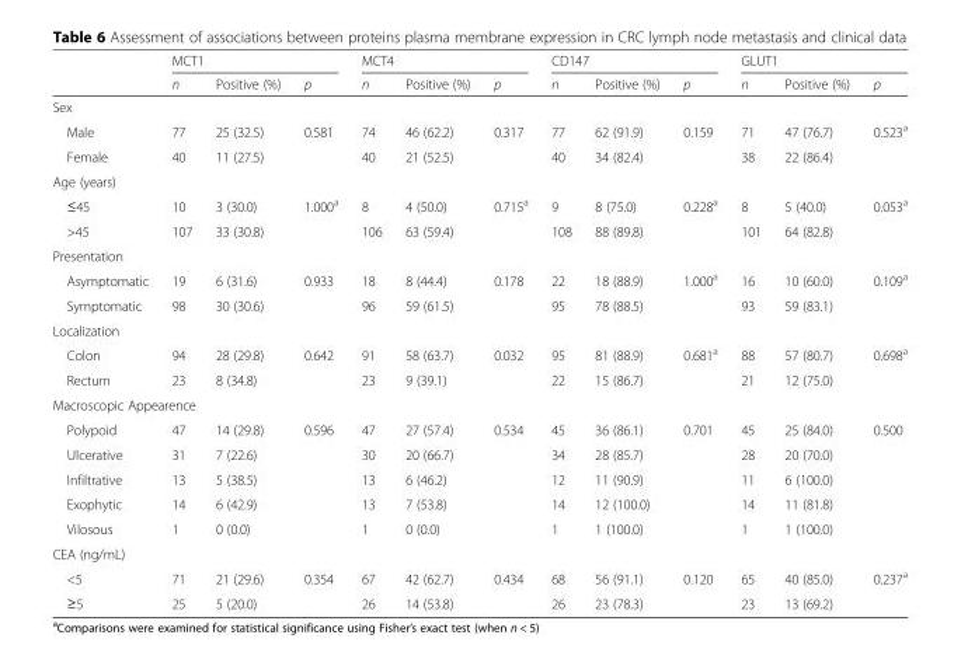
<table><thead><tr><td rowspan="2"></td><td colspan="3">MCT1</td><td colspan="3">MCT4</td><td colspan="3">CD147</td><td colspan="3">GLUT1</td></tr><tr><td>n</td><td>Positive (%)</td><td>p</td><td>n</td><td>Positive (%)</td><td>p</td><td>n</td><td>Positive (%)</td><td>p</td><td>n</td><td>Positive (%)</td><td>p</td></tr></thead><tbody><tr><td colspan="13">Sex</td></tr><tr><td>Male</td><td>77</td><td>25 (32.5)</td><td>0.581</td><td>74</td><td>46 (62.2)</td><td>0.317</td><td>77</td><td>62 (91.9)</td><td>0.159</td><td>71</td><td>47 (76.7)</td><td>0.523<sup>a</sup></td></tr><tr><td>Female</td><td>40</td><td>11 (27.5)</td><td></td><td>40</td><td>21 (52.5)</td><td></td><td>40</td><td>34 (82.4)</td><td></td><td>38</td><td>22 (86.4)</td><td></td></tr><tr><td colspan="13">Age (years)</td></tr><tr><td>≤45</td><td>10</td><td>3 (30.0)</td><td>1.000<sup>a</sup></td><td>8</td><td>4 (50.0)</td><td>0.715<sup>a</sup></td><td>9</td><td>8 (75.0)</td><td>0.228<sup>a</sup></td><td>8</td><td>5 (40.0)</td><td>0.053<sup>a</sup></td></tr><tr><td>&gt;45</td><td>107</td><td>33 (30.8)</td><td></td><td>106</td><td>63 (59.4)</td><td></td><td>108</td><td>88 (89.8)</td><td></td><td>101</td><td>64 (82.8)</td><td></td></tr><tr><td colspan="13">Presentation</td></tr><tr><td>Asymptomatic</td><td>19</td><td>6 (31.6)</td><td>0.933</td><td>18</td><td>8 (44.4)</td><td>0.178</td><td>22</td><td>18 (88.9)</td><td>1.000<sup>a</sup></td><td>16</td><td>10 (60.0)</td><td>0.109<sup>a</sup></td></tr><tr><td>Symptomatic</td><td>98</td><td>30 (30.6)</td><td></td><td>96</td><td>59 (61.5)</td><td></td><td>95</td><td>78 (88.5)</td><td></td><td>93</td><td>59 (83.1)</td><td></td></tr><tr><td colspan="13">Localization</td></tr><tr><td>Colon</td><td>94</td><td>28 (29.8)</td><td>0.642</td><td>91</td><td>58 (63.7)</td><td>0.032</td><td>95</td><td>81 (88.9)</td><td>0.681<sup>a</sup></td><td>88</td><td>57 (80.7)</td><td>0.698<sup>a</sup></td></tr><tr><td>Rectum</td><td>23</td><td>8 (34.8)</td><td></td><td>23</td><td>9 (39.1)</td><td></td><td>22</td><td>15 (86.7)</td><td></td><td>21</td><td>12 (75.0)</td><td></td></tr><tr><td colspan="13">Macroscopic Appearence</td></tr><tr><td>Polypoid</td><td>47</td><td>14 (29.8)</td><td>0.596</td><td>47</td><td>27 (57.4)</td><td>0.534</td><td>45</td><td>36 (86.1)</td><td>0.701</td><td>45</td><td>25 (84.0)</td><td>0.500</td></tr><tr><td>Ulcerative</td><td>31</td><td>7 (22.6)</td><td></td><td>30</td><td>20 (66.7)</td><td></td><td>34</td><td>28 (85.7)</td><td></td><td>28</td><td>20 (70.0)</td><td></td></tr><tr><td>Infiltrative</td><td>13</td><td>5 (38.5)</td><td></td><td>13</td><td>6 (46.2)</td><td></td><td>12</td><td>11 (90.9)</td><td></td><td>11</td><td>6 (100.0)</td><td></td></tr><tr><td>Exophytic</td><td>14</td><td>6 (42.9)</td><td></td><td>13</td><td>7 (53.8)</td><td></td><td>14</td><td>12 (100.0)</td><td></td><td>14</td><td>11 (81.8)</td><td></td></tr><tr><td>Vilosous</td><td>1</td><td>0 (0.0)</td><td></td><td>1</td><td>0 (0.0)</td><td></td><td>1</td><td>1 (100.0)</td><td></td><td>1</td><td>1 (100.0)</td><td></td></tr><tr><td colspan="13">CEA (ng/mL)</td></tr><tr><td>&lt;5</td><td>71</td><td>21 (29.6)</td><td>0.354</td><td>67</td><td>42 (62.7)</td><td>0.434</td><td>68</td><td>56 (91.1)</td><td>0.120</td><td>65</td><td>40 (85.0)</td><td>0.237<sup>a</sup></td></tr><tr><td>≥5</td><td>25</td><td>5 (20.0)</td><td></td><td>26</td><td>14 (53.8)</td><td></td><td>26</td><td>23 (78.3)</td><td></td><td>23</td><td>13 (69.2)</td><td></td></tr></tbody></table>